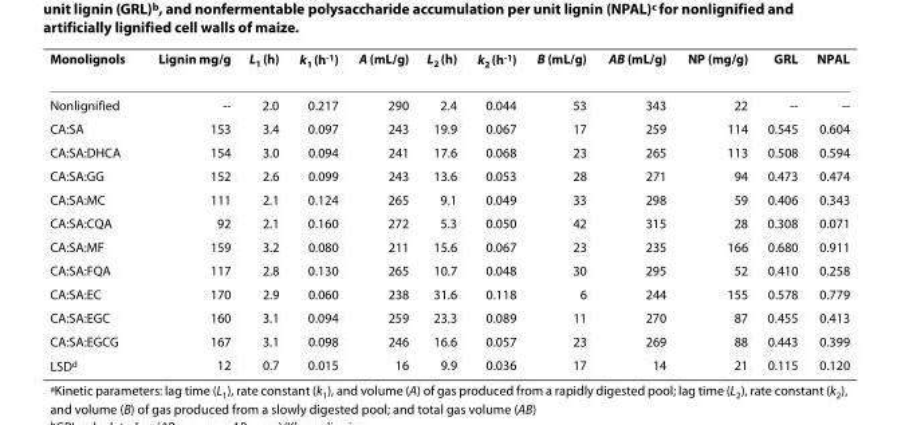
<table><thead><tr><td>Monolignols</td><td>Lignin mg/g</td><td>L<sub>1</sub> (h)</td><td>k<sub>1</sub> (h<sup>-1</sup>)</td><td>A (mL/g)</td><td>L<sub>2</sub> (h)</td><td>k<sub>2</sub> (h<sup>-1</sup>)</td><td>B (mL/g)</td><td>AB (mL/g)</td><td>NP (mg/g)</td><td>GRL</td><td>NPAL</td></tr></thead><tbody><tr><td>Nonlignified</td><td>--</td><td>2.0</td><td>0.217</td><td>290</td><td>2.4</td><td>0.044</td><td>53</td><td>343</td><td>22</td><td>--</td><td>--</td></tr><tr><td>CA:SA</td><td>153</td><td>3.4</td><td>0.097</td><td>243</td><td>19.9</td><td>0.067</td><td>17</td><td>259</td><td>114</td><td>0.545</td><td>0.604</td></tr><tr><td>CA:SA:DHCA</td><td>154</td><td>3.0</td><td>0.094</td><td>241</td><td>17.6</td><td>0.068</td><td>23</td><td>265</td><td>113</td><td>0.508</td><td>0.594</td></tr><tr><td>CA:SA:GG</td><td>152</td><td>2.6</td><td>0.099</td><td>243</td><td>13.6</td><td>0.053</td><td>28</td><td>271</td><td>94</td><td>0.473</td><td>0.474</td></tr><tr><td>CA:SA:MC</td><td>111</td><td>2.1</td><td>0.124</td><td>265</td><td>9.1</td><td>0.049</td><td>33</td><td>298</td><td>59</td><td>0.406</td><td>0.343</td></tr><tr><td>CA:SA:CQA</td><td>92</td><td>2.1</td><td>0.160</td><td>272</td><td>5.3</td><td>0.050</td><td>42</td><td>315</td><td>28</td><td>0.308</td><td>0.071</td></tr><tr><td>CA:SA:MF</td><td>159</td><td>3.2</td><td>0.080</td><td>211</td><td>15.6</td><td>0.067</td><td>23</td><td>235</td><td>166</td><td>0.680</td><td>0.911</td></tr><tr><td>CA:SA:FQA</td><td>117</td><td>2.8</td><td>0.130</td><td>265</td><td>10.7</td><td>0.048</td><td>30</td><td>295</td><td>52</td><td>0.410</td><td>0.258</td></tr><tr><td>CA:SA:EC</td><td>170</td><td>2.9</td><td>0.060</td><td>238</td><td>31.6</td><td>0.118</td><td>6</td><td>244</td><td>155</td><td>0.578</td><td>0.779</td></tr><tr><td>CA:SA:EGC</td><td>160</td><td>3.1</td><td>0.094</td><td>259</td><td>23.3</td><td>0.089</td><td>11</td><td>270</td><td>87</td><td>0.455</td><td>0.413</td></tr><tr><td>CA:SA:EGCG</td><td>167</td><td>3.1</td><td>0.098</td><td>246</td><td>16.6</td><td>0.057</td><td>23</td><td>269</td><td>88</td><td>0.443</td><td>0.399</td></tr><tr><td>LSD<sup>d</sup></td><td>12</td><td>0.7</td><td>0.015</td><td>16</td><td>9.9</td><td>0.036</td><td>17</td><td>14</td><td>21</td><td>0.115</td><td>0.120</td></tr></tbody></table>